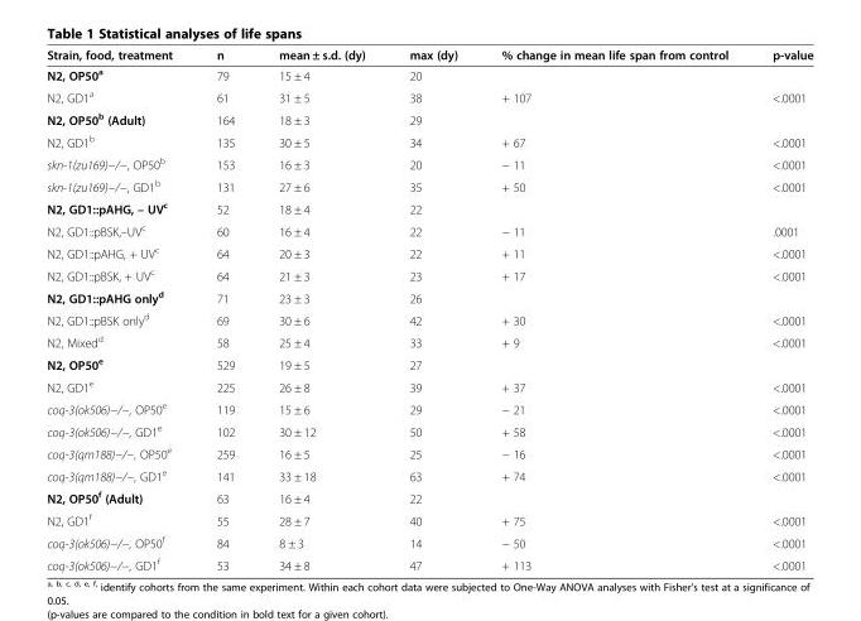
<table><thead><tr><td>Strain, food, treatment</td><td>n</td><td>mean ± s.d. (dy)</td><td>max (dy)</td><td>% change in mean life span from control</td><td>p-value</td></tr></thead><tbody><tr><td>N2, OP50<sup>a</sup></td><td>79</td><td>15 ± 4</td><td>20</td><td></td><td></td></tr><tr><td>N2, GD1<sup>a</sup></td><td>61</td><td>31 ± 5</td><td>38</td><td>+ 107</td><td>&lt;.0001</td></tr><tr><td>N2, OP50<sup>b</sup> (Adult)</td><td>164</td><td>18 ± 3</td><td>29</td><td></td><td></td></tr><tr><td>N2, GD1<sup>b</sup></td><td>135</td><td>30 ± 5</td><td>34</td><td>+ 67</td><td>&lt;.0001</td></tr><tr><td>skn-1(zu169)−/−, OP50<sup>b</sup></td><td>153</td><td>16 ± 3</td><td>20</td><td>− 11</td><td>&lt;.0001</td></tr><tr><td>skn-1(zu169)−/−, GD1<sup>b</sup></td><td>131</td><td>27 ± 6</td><td>35</td><td>+ 50</td><td>&lt;.0001</td></tr><tr><td>N2, GD1::pAHG, – UV<sup>c</sup></td><td>52</td><td>18 ± 4</td><td>22</td><td></td><td></td></tr><tr><td>N2, GD1::pBSK,–UV<sup>c</sup></td><td>60</td><td>16 ± 4</td><td>22</td><td>− 11</td><td>.0001</td></tr><tr><td>N2, GD1::pAHG, + UV<sup>c</sup></td><td>64</td><td>20 ± 3</td><td>22</td><td>+ 11</td><td>&lt;.0001</td></tr><tr><td>N2, GD1::pBSK, + UV<sup>c</sup></td><td>64</td><td>21 ± 3</td><td>23</td><td>+ 17</td><td>&lt;.0001</td></tr><tr><td>N2, GD1::pAHG only<sup>d</sup></td><td>71</td><td>23 ± 3</td><td>26</td><td></td><td></td></tr><tr><td>N2, GD1::pBSK only<sup>d</sup></td><td>69</td><td>30 ± 6</td><td>42</td><td>+ 30</td><td>&lt;.0001</td></tr><tr><td>N2, Mixed<sup>d</sup></td><td>58</td><td>25 ± 4</td><td>33</td><td>+ 9</td><td>&lt;.0001</td></tr><tr><td>N2, OP50<sup>e</sup></td><td>529</td><td>19 ± 5</td><td>27</td><td></td><td></td></tr><tr><td>N2, GD1<sup>e</sup></td><td>225</td><td>26 ± 8</td><td>39</td><td>+ 37</td><td>&lt;.0001</td></tr><tr><td>coq-3(ok506)−/−, OP50<sup>e</sup></td><td>119</td><td>15 ± 6</td><td>29</td><td>− 21</td><td>&lt;.0001</td></tr><tr><td>coq-3(ok506)−/−, GD1<sup>e</sup></td><td>102</td><td>30 ± 12</td><td>50</td><td>+ 58</td><td>&lt;.0001</td></tr><tr><td>coq-3(qm188)−/−, OP50<sup>e</sup></td><td>259</td><td>16 ± 5</td><td>25</td><td>− 16</td><td>&lt;.0001</td></tr><tr><td>coq-3(qm188)−/−, GD1<sup>e</sup></td><td>141</td><td>33 ± 18</td><td>63</td><td>+ 74</td><td>&lt;.0001</td></tr><tr><td>N2, OP50<sup>f</sup> (Adult)</td><td>63</td><td>16 ± 4</td><td>22</td><td></td><td></td></tr><tr><td>N2, GD1<sup>f</sup></td><td>55</td><td>28 ± 7</td><td>40</td><td>+ 75</td><td>&lt;.0001</td></tr><tr><td>coq-3(ok506)−/−, OP50<sup>f</sup></td><td>84</td><td>8 ± 3</td><td>14</td><td>− 50</td><td>&lt;.0001</td></tr><tr><td>coq-3(ok506)−/−, GD1<sup>f</sup></td><td>53</td><td>34 ± 8</td><td>47</td><td>+ 113</td><td>&lt;.0001</td></tr></tbody></table>